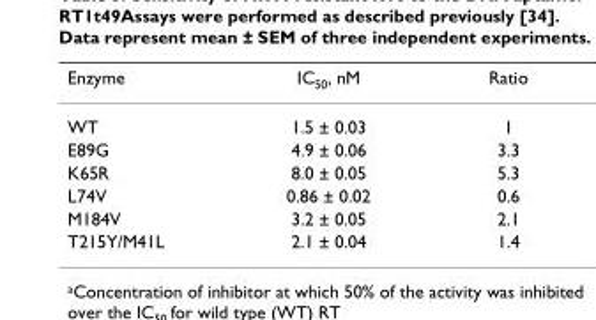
<table><thead><tr><td>Enzyme</td><td>IC<sub>50</sub>, nM</td><td>Ratio</td></tr></thead><tbody><tr><td>WT</td><td>1.5 ± 0.03</td><td>1</td></tr><tr><td>E89G</td><td>4.9 ± 0.06</td><td>3.3</td></tr><tr><td>K65R</td><td>8.0 ± 0.05</td><td>5.3</td></tr><tr><td>L74V</td><td>0.86 ± 0.02</td><td>0.6</td></tr><tr><td>M184V</td><td>3.2 ± 0.05</td><td>2.1</td></tr><tr><td>T215Y/M41L</td><td>2.1 ± 0.04</td><td>1.4</td></tr></tbody></table>